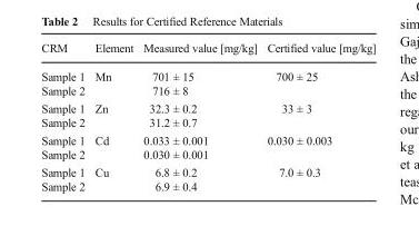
<table><thead><tr><td>CRM</td><td>Element</td><td>Measured value [mg/kg]</td><td>Certified value [mg/kg]</td></tr></thead><tbody><tr><td>Sample 1</td><td rowspan="2">Mn</td><td>701 ± 15</td><td rowspan="2">700 ± 25</td></tr><tr><td>Sample 2</td><td>716 ± 8</td></tr><tr><td>Sample 1</td><td rowspan="2">Zn</td><td>32.3 ± 0.2</td><td rowspan="2">33 ± 3</td></tr><tr><td>Sample 2</td><td>31.2 ± 0.7</td></tr><tr><td>Sample 1</td><td rowspan="2">Cd</td><td>0.033 ± 0.001</td><td rowspan="2">0.030 ± 0.003</td></tr><tr><td>Sample 2</td><td>0.030 ± 0.001</td></tr><tr><td>Sample 1</td><td rowspan="2">Cu</td><td>6.8 ± 0.2</td><td rowspan="2">7.0 ± 0.3</td></tr><tr><td>Sample 2</td><td>6.9 ± 0.4</td></tr></tbody></table>